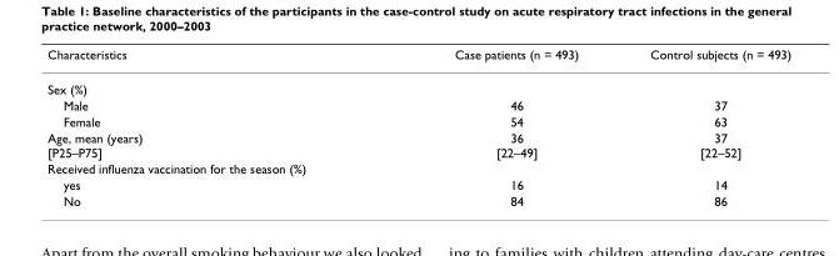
<table><thead><tr><td>Characteristics</td><td>Case patients (n = 493)</td><td>Control subjects (n = 493)</td></tr></thead><tbody><tr><td colspan="3">Sex (%)</td></tr><tr><td>Male</td><td>46</td><td>37</td></tr><tr><td>Female</td><td>54</td><td>63</td></tr><tr><td>Age, mean (years) [P25–P75]</td><td>36 [22–49]</td><td>37 [22–52]</td></tr><tr><td colspan="3">Received influenza vaccination for the season (%)</td></tr><tr><td>yes</td><td>16</td><td>14</td></tr><tr><td>No</td><td>84</td><td>86</td></tr></tbody></table>